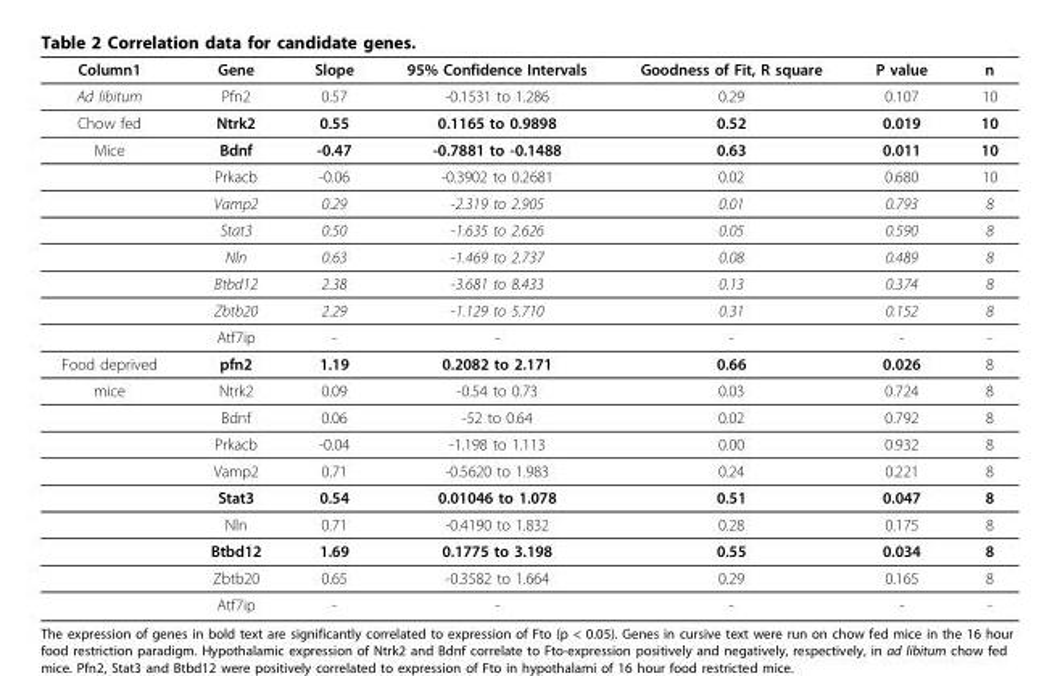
<table><thead><tr><td>Column1</td><td>Gene</td><td>Slope</td><td>95% Confidence Intervals</td><td>Goodness of Fit, R square</td><td>P value</td><td>n</td></tr></thead><tbody><tr><td>Ad libitum</td><td>Pfn2</td><td>0.57</td><td>-0.1531 to 1.286</td><td>0.29</td><td>0.107</td><td>10</td></tr><tr><td>Chow fed</td><td>Ntrk2</td><td>0.55</td><td>0.1165 to 0.9898</td><td>0.52</td><td>0.019</td><td>10</td></tr><tr><td rowspan="8">Mice</td><td>Bdnf</td><td>-0.47</td><td>-0.7881 to -0.1488</td><td>0.63</td><td>0.011</td><td>10</td></tr><tr><td>Prkacb</td><td>-0.06</td><td>-0.3902 to 0.2681</td><td>0.02</td><td>0.680</td><td>10</td></tr><tr><td>Vamp2</td><td>0.29</td><td>-2.319 to 2.905</td><td>0.01</td><td>0.793</td><td>8</td></tr><tr><td>Stat3</td><td>0.50</td><td>-1.635 to 2.626</td><td>0.05</td><td>0.590</td><td>8</td></tr><tr><td>Nln</td><td>0.63</td><td>-1.469 to 2.737</td><td>0.08</td><td>0.489</td><td>8</td></tr><tr><td>Btbd12</td><td>2.38</td><td>-3.681 to 8.433</td><td>0.13</td><td>0.374</td><td>8</td></tr><tr><td>Zbtb20</td><td>2.29</td><td>-1.129 to 5.710</td><td>0.31</td><td>0.152</td><td>8</td></tr><tr><td>Atf7ip</td><td>-</td><td>-</td><td>-</td><td>-</td><td>-</td></tr><tr><td>Food deprived</td><td>pfn2</td><td>1.19</td><td>0.2082 to 2.171</td><td>0.66</td><td>0.026</td><td>8</td></tr><tr><td rowspan="9">mice</td><td>Ntrk2</td><td>0.09</td><td>-0.54 to 0.73</td><td>0.03</td><td>0.724</td><td>8</td></tr><tr><td>Bdnf</td><td>0.06</td><td>-52 to 0.64</td><td>0.02</td><td>0.792</td><td>8</td></tr><tr><td>Prkacb</td><td>-0.04</td><td>-1.198 to 1.113</td><td>0.00</td><td>0.932</td><td>8</td></tr><tr><td>Vamp2</td><td>0.71</td><td>-0.5620 to 1.983</td><td>0.24</td><td>0.221</td><td>8</td></tr><tr><td>Stat3</td><td>0.54</td><td>0.01046 to 1.078</td><td>0.51</td><td>0.047</td><td>8</td></tr><tr><td>Nln</td><td>0.71</td><td>-0.4190 to 1.832</td><td>0.28</td><td>0.175</td><td>8</td></tr><tr><td>Btbd12</td><td>1.69</td><td>0.1775 to 3.198</td><td>0.55</td><td>0.034</td><td>8</td></tr><tr><td>Zbtb20</td><td>0.65</td><td>-0.3582 to 1.664</td><td>0.29</td><td>0.165</td><td>8</td></tr><tr><td>Atf7ip</td><td>-</td><td>-</td><td>-</td><td>-</td><td>-</td></tr></tbody></table>